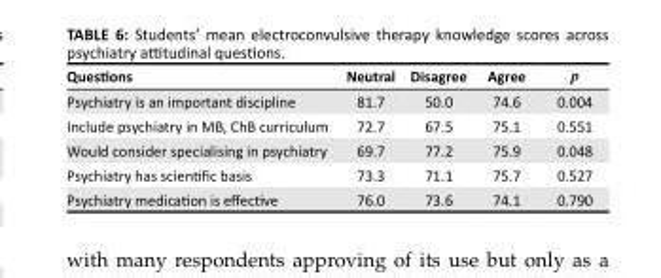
<table><thead><tr><td>Questions</td><td>Neutral</td><td>Disagree</td><td>Agree</td><td>p</td></tr></thead><tbody><tr><td>Psychiatry is an important discipline</td><td>81.7</td><td>50.0</td><td>74.6</td><td>0.004</td></tr><tr><td>Include psychiatry in MB, ChB curriculum</td><td>72.7</td><td>67.5</td><td>75.1</td><td>0.551</td></tr><tr><td>Would consider specialising in psychiatry</td><td>69.7</td><td>77.2</td><td>75.9</td><td>0.048</td></tr><tr><td>Psychiatry has scientific basis</td><td>73.3</td><td>71.1</td><td>75.7</td><td>0.527</td></tr><tr><td>Psychiatry medication is effective</td><td>76.0</td><td>73.6</td><td>74.1</td><td>0.790</td></tr></tbody></table>